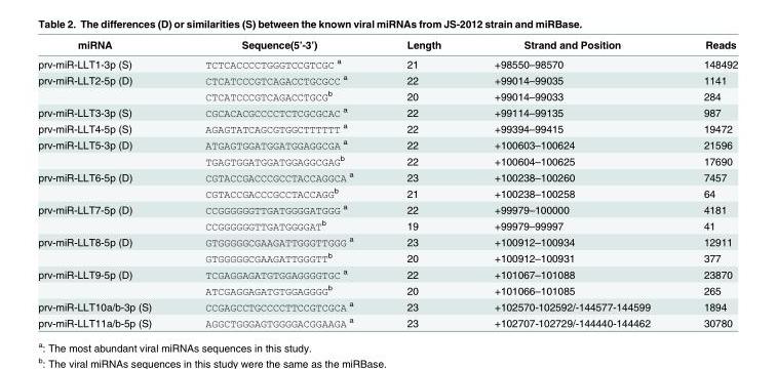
<table><thead><tr><td>miRNA</td><td>Sequence(5’-3’)</td><td>Length</td><td>Strand and Position</td><td>Reads</td></tr></thead><tbody><tr><td>prv-miR-LLT1-3p (S)</td><td>TCTCACCCCTGGGTCCGTCGC <sup>a</sup></td><td>21</td><td>+98550–98570</td><td>148492</td></tr><tr><td rowspan="2">prv-miR-LLT2-5p (D)</td><td>CTCATCCCGTCAGACCTGCGCC <sup>a</sup></td><td>22</td><td>+99014–99035</td><td>1141</td></tr><tr><td>CTCATCCCGTCAGACCTGCG<sup>b</sup></td><td>20</td><td>+99014–99033</td><td>284</td></tr><tr><td>prv-miR-LLT3-3p (S)</td><td>CGCACACGCCCCTCTCGCGCAC <sup>a</sup></td><td>22</td><td>+99114–99135</td><td>987</td></tr><tr><td>prv-miR-LLT4-5p (S)</td><td>AGAGTATCAGCGTGGCTTTTTT <sup>a</sup></td><td>22</td><td>+99394–99415</td><td>19472</td></tr><tr><td rowspan="2">prv-miR-LLT5-3p (D)</td><td>ATGAGTGGATGGATGGAGGCGA <sup>a</sup></td><td>22</td><td>+100603–100624</td><td>21596</td></tr><tr><td>TGAGTGGATGGATGGAGGCGAG<sup>b</sup></td><td>22</td><td>+100604–100625</td><td>17690</td></tr><tr><td rowspan="2">prv-miR-LLT6-5p (D)</td><td>CGTACCGACCCGCCTACCAGGCA <sup>a</sup></td><td>23</td><td>+100238–100260</td><td>7457</td></tr><tr><td>CGTACCGACCCGCCTACCAGG<sup>b</sup></td><td>21</td><td>+100238–100258</td><td>64</td></tr><tr><td rowspan="2">prv-miR-LLT7-5p (D)</td><td>CCGGGGGGTTGATGGGGATGGG <sup>a</sup></td><td>22</td><td>+99979–100000</td><td>4181</td></tr><tr><td>CCGGGGGGTTGATGGGGAT<sup>b</sup></td><td>19</td><td>+99979–99997</td><td>41</td></tr><tr><td rowspan="2">prv-miR-LLT8-5p (D)</td><td>GTGGGGGCGAAGATTGGGTTGGG <sup>a</sup></td><td>23</td><td>+100912–100934</td><td>12911</td></tr><tr><td>GTGGGGGCGAAGATTGGGTT<sup>b</sup></td><td>20</td><td>+100912–100931</td><td>377</td></tr><tr><td rowspan="2">prv-miR-LLT9-5p (D)</td><td>TCGAGGAGATGTGGAGGGGTGC <sup>a</sup></td><td>22</td><td>+101067–101088</td><td>23870</td></tr><tr><td>ATCGAGGAGATGTGGAGGGG<sup>b</sup></td><td>20</td><td>+101066–101085</td><td>265</td></tr><tr><td>prv-miR-LLT10a/b-3p (S)</td><td>CCGAGCCTGCCCCTTCCGTCGCA <sup>a</sup></td><td>23</td><td>+102570-102592/-144577-144599</td><td>1894</td></tr><tr><td>prv-miR-LLT11a/b-5p (S)</td><td>AGGCTGGGAGTGGGGACGGAAGA <sup>a</sup></td><td>23</td><td>+102707-102729/-144440-144462</td><td>30780</td></tr></tbody></table>